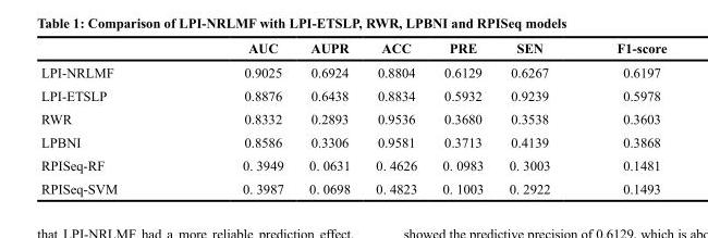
<table><thead><tr><td></td><td>AUC</td><td>AUPR</td><td>ACC</td><td>PRE</td><td>SEN</td><td>F1-score</td></tr></thead><tbody><tr><td>LPI-NRLMF</td><td>0.9025</td><td>0.6924</td><td>0.8804</td><td>0.6129</td><td>0.6267</td><td>0.6197</td></tr><tr><td>LPI-ETSLP</td><td>0.8876</td><td>0.6438</td><td>0.8834</td><td>0.5932</td><td>0.9239</td><td>0.5978</td></tr><tr><td>RWR</td><td>0.8332</td><td>0.2893</td><td>0.9536</td><td>0.3680</td><td>0.3538</td><td>0.3603</td></tr><tr><td>LPBNI</td><td>0.8586</td><td>0.3306</td><td>0.9581</td><td>0.3713</td><td>0.4139</td><td>0.3868</td></tr><tr><td>RPISeq-RF</td><td>0. 3949</td><td>0. 0631</td><td>0. 4626</td><td>0. 0983</td><td>0. 3003</td><td>0.1481</td></tr><tr><td>RPISeq-SVM</td><td>0. 3987</td><td>0. 0698</td><td>0. 4823</td><td>0. 1003</td><td>0. 2922</td><td>0.1493</td></tr></tbody></table>